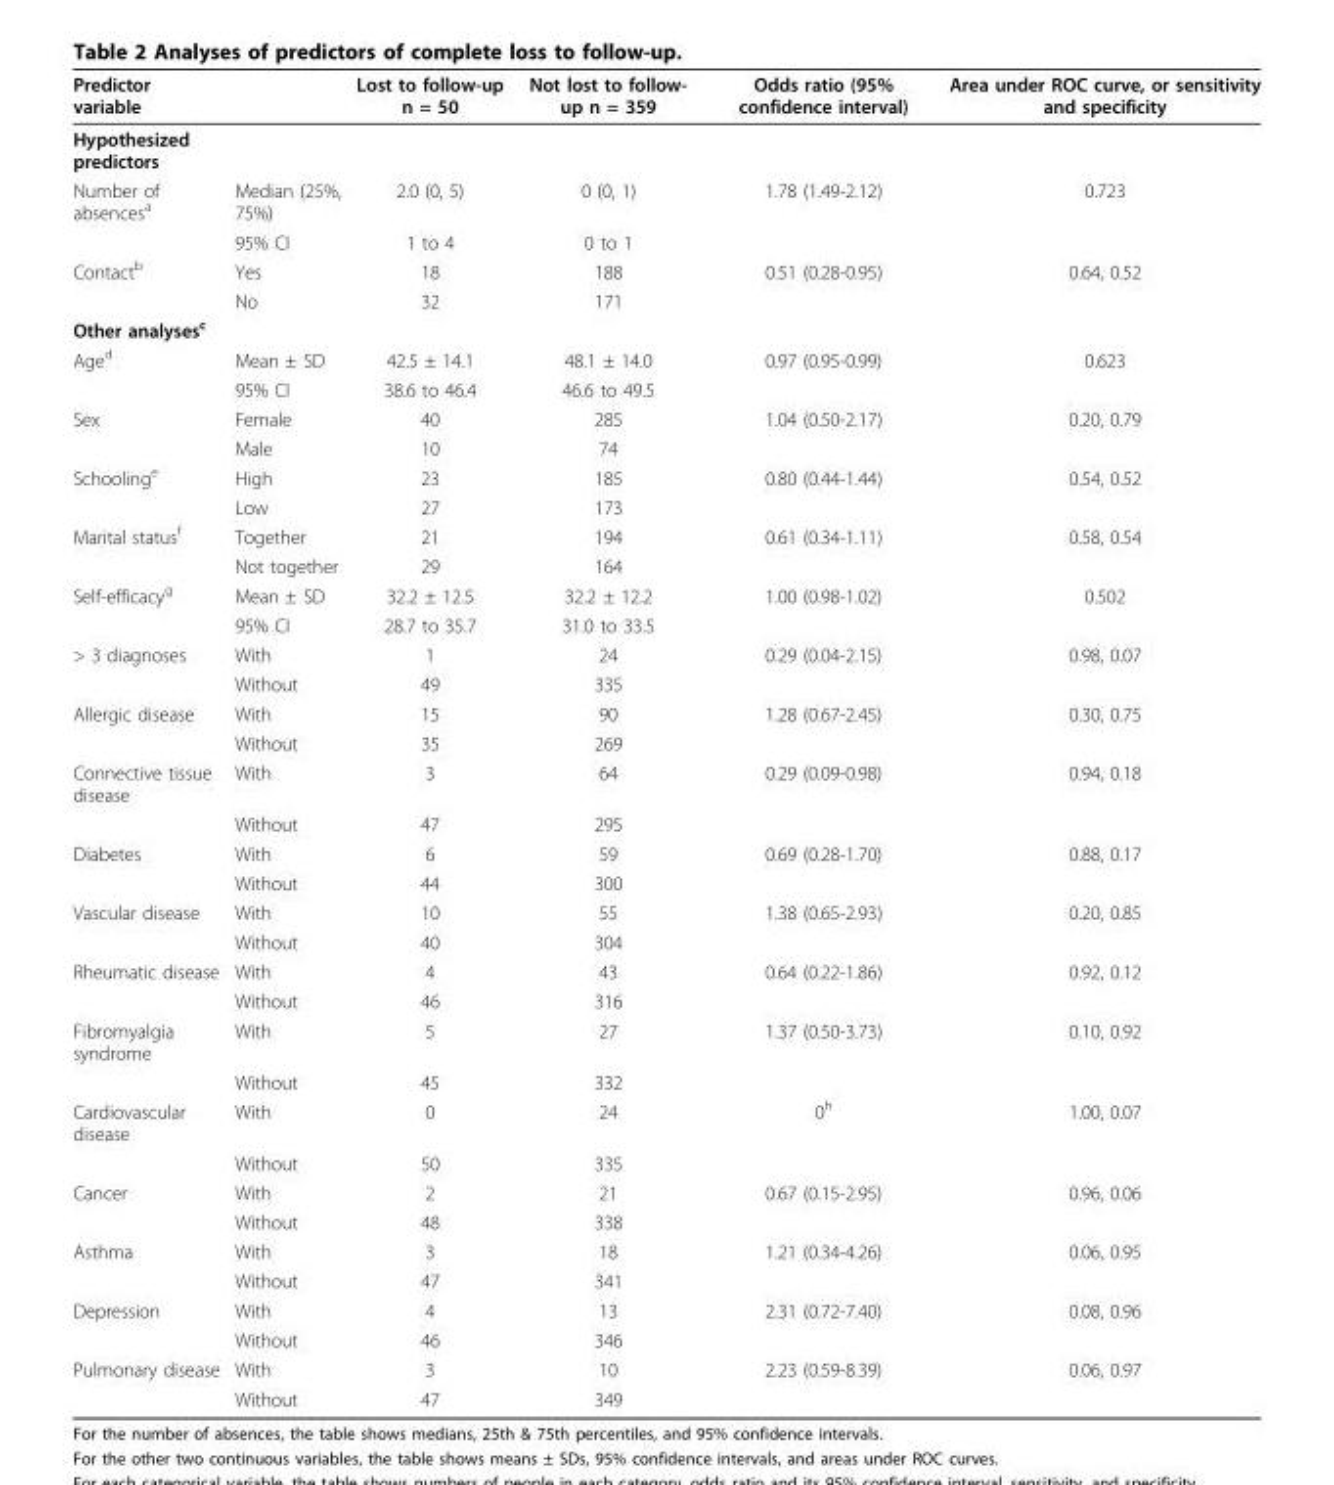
<table><thead><tr><td>Predictor variable</td><td></td><td>Lost to follow-up n = 50</td><td>Not lost to follow- up n = 359</td><td>Odds ratio (95% confidence interval)</td><td>Area under ROC curve, or sensitivity and specificity</td></tr></thead><tbody><tr><td colspan="6">Hypothesized predictors</td></tr><tr><td rowspan="2">Number of absences<sup>a</sup></td><td>Median (25%, 75%)</td><td>2.0 (0, 5)</td><td>0 (0, 1)</td><td>1.78 (1.49-2.12)</td><td>0.723</td></tr><tr><td>95% CI</td><td>1 to 4</td><td>0 to 1</td><td></td><td></td></tr><tr><td rowspan="2">Contact<sup>b</sup></td><td>Yes</td><td>18</td><td>188</td><td>0.51 (0.28-0.95)</td><td>0.64, 0.52</td></tr><tr><td>No</td><td>32</td><td>171</td><td></td><td></td></tr><tr><td colspan="6">Other analyses<sup>c</sup></td></tr><tr><td rowspan="2">Age<sup>d</sup></td><td>Mean ± SD</td><td>42.5 ± 14.1</td><td>48.1 ± 14.0</td><td>0.97 (0.95-0.99)</td><td>0.623</td></tr><tr><td>95% CI</td><td>38.6 to 46.4</td><td>46.6 to 49.5</td><td></td><td></td></tr><tr><td rowspan="2">Sex</td><td>Female</td><td>40</td><td>285</td><td>1.04 (0.50-2.17)</td><td>0.20, 0.79</td></tr><tr><td>Male</td><td>10</td><td>74</td><td></td><td></td></tr><tr><td rowspan="2">Schooling<sup>e</sup></td><td>High</td><td>23</td><td>185</td><td>0.80 (0.44-1.44)</td><td>0.54, 0.52</td></tr><tr><td>Low</td><td>27</td><td>173</td><td></td><td></td></tr><tr><td rowspan="2">Marital status<sup>f</sup></td><td>Together</td><td>21</td><td>194</td><td>0.61 (0.34-1.11)</td><td>0.58, 0.54</td></tr><tr><td>Not together</td><td>29</td><td>164</td><td></td><td></td></tr><tr><td rowspan="2">Self-efficacy<sup>g</sup></td><td>Mean ± SD</td><td>32.2 ± 12.5</td><td>32.2 ± 12.2</td><td>1.00 (0.98-1.02)</td><td>0.502</td></tr><tr><td>95% CI</td><td>28.7 to 35.7</td><td>31.0 to 33.5</td><td></td><td></td></tr><tr><td rowspan="2">&gt; 3 diagnoses</td><td>With</td><td>1</td><td>24</td><td>0.29 (0.04-2.15)</td><td>0.98, 0.07</td></tr><tr><td>Without</td><td>49</td><td>335</td><td></td><td></td></tr><tr><td rowspan="2">Allergic disease</td><td>With</td><td>15</td><td>90</td><td>1.28 (0.67-2.45)</td><td>0.30, 0.75</td></tr><tr><td>Without</td><td>35</td><td>269</td><td></td><td></td></tr><tr><td rowspan="2">Connective tissue disease</td><td>With</td><td>3</td><td>64</td><td>0.29 (0.09-0.98)</td><td>0.94, 0.18</td></tr><tr><td>Without</td><td>47</td><td>295</td><td></td><td></td></tr><tr><td rowspan="2">Diabetes</td><td>With</td><td>6</td><td>59</td><td>0.69 (0.28-1.70)</td><td>0.88, 0.17</td></tr><tr><td>Without</td><td>44</td><td>300</td><td></td><td></td></tr><tr><td rowspan="2">Vascular disease</td><td>With</td><td>10</td><td>55</td><td>1.38 (0.65-2.93)</td><td>0.20, 0.85</td></tr><tr><td>Without</td><td>40</td><td>304</td><td></td><td></td></tr><tr><td rowspan="2">Rheumatic disease</td><td>With</td><td>4</td><td>43</td><td>0.64 (0.22-1.86)</td><td>0.92, 0.12</td></tr><tr><td>Without</td><td>46</td><td>316</td><td></td><td></td></tr><tr><td rowspan="2">Fibromyalgia syndrome</td><td>With</td><td>5</td><td>27</td><td>1.37 (0.50-3.73)</td><td>0.10, 0.92</td></tr><tr><td>Without</td><td>45</td><td>332</td><td></td><td></td></tr><tr><td rowspan="2">Cardiovascular disease</td><td>With</td><td>0</td><td>24</td><td>0<sup>h</sup></td><td>1.00, 0.07</td></tr><tr><td>Without</td><td>50</td><td>335</td><td></td><td></td></tr><tr><td rowspan="2">Cancer</td><td>With</td><td>2</td><td>21</td><td>0.67 (0.15-2.95)</td><td>0.96, 0.06</td></tr><tr><td>Without</td><td>48</td><td>338</td><td></td><td></td></tr><tr><td rowspan="2">Asthma</td><td>With</td><td>3</td><td>18</td><td>1.21 (0.34-4.26)</td><td>0.06, 0.95</td></tr><tr><td>Without</td><td>47</td><td>341</td><td></td><td></td></tr><tr><td rowspan="2">Depression</td><td>With</td><td>4</td><td>13</td><td>2.31 (0.72-7.40)</td><td>0.08, 0.96</td></tr><tr><td>Without</td><td>46</td><td>346</td><td></td><td></td></tr><tr><td rowspan="2">Pulmonary disease</td><td>With</td><td>3</td><td>10</td><td>2.23 (0.59-8.39)</td><td>0.06, 0.97</td></tr><tr><td>Without</td><td>47</td><td>349</td><td></td><td></td></tr></tbody></table>